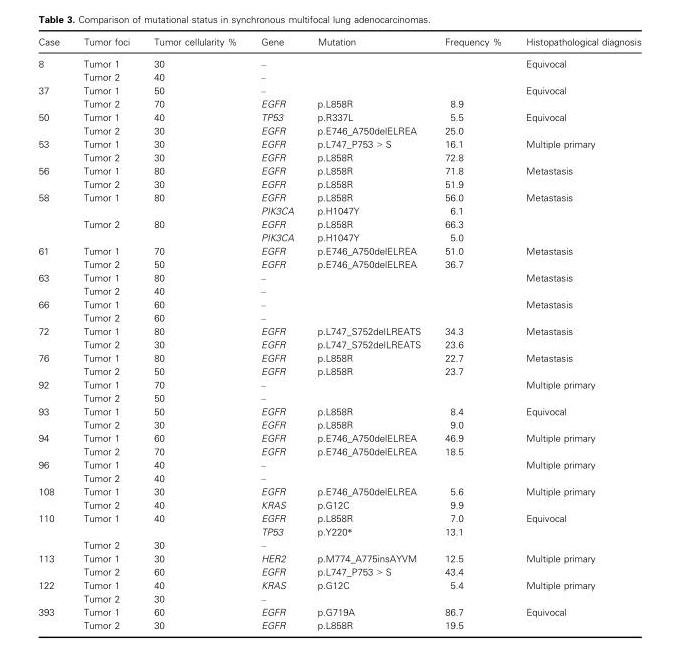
<table><thead><tr><td>Case</td><td>Tumor foci</td><td>Tumor cellularity %</td><td>Gene</td><td>Mutation</td><td>Frequency %</td><td>Histopathological diagnosis</td></tr></thead><tbody><tr><td rowspan="2">8</td><td>Tumor 1</td><td>30</td><td>–</td><td></td><td></td><td rowspan="2">Equivocal</td></tr><tr><td>Tumor 2</td><td>40</td><td>–</td><td></td><td></td></tr><tr><td rowspan="2">37</td><td>Tumor 1</td><td>50</td><td>–</td><td></td><td></td><td rowspan="2">Equivocal</td></tr><tr><td>Tumor 2</td><td>70</td><td>EGFR</td><td>p.L858R</td><td>8.9</td></tr><tr><td rowspan="2">50</td><td>Tumor 1</td><td>40</td><td>TP53</td><td>p.R337L</td><td>5.5</td><td rowspan="2">Equivocal</td></tr><tr><td>Tumor 2</td><td>30</td><td>EGFR</td><td>p.E746_A750delELREA</td><td>25.0</td></tr><tr><td rowspan="2">53</td><td>Tumor 1</td><td>30</td><td>EGFR</td><td>p.L747_P753 &gt; S</td><td>16.1</td><td rowspan="2">Multiple primary</td></tr><tr><td>Tumor 2</td><td>30</td><td>EGFR</td><td>p.L858R</td><td>72.8</td></tr><tr><td rowspan="2">56</td><td>Tumor 1</td><td>80</td><td>EGFR</td><td>p.L858R</td><td>71.8</td><td rowspan="2">Metastasis</td></tr><tr><td>Tumor 2</td><td>30</td><td>EGFR</td><td>p.L858R</td><td>51.9</td></tr><tr><td rowspan="4">58</td><td rowspan="2">Tumor 1</td><td rowspan="2">80</td><td>EGFR</td><td>p.L858R</td><td>56.0</td><td rowspan="4">Metastasis</td></tr><tr><td>PIK3CA</td><td>p.H1047Y</td><td>6.1</td></tr><tr><td rowspan="2">Tumor 2</td><td rowspan="2">80</td><td>EGFR</td><td>p.L858R</td><td>66.3</td></tr><tr><td>PIK3CA</td><td>p.H1047Y</td><td>5.0</td></tr><tr><td rowspan="2">61</td><td>Tumor 1</td><td>70</td><td>EGFR</td><td>p.E746_A750delELREA</td><td>51.0</td><td rowspan="2">Metastasis</td></tr><tr><td>Tumor 2</td><td>50</td><td>EGFR</td><td>p.E746_A750delELREA</td><td>36.7</td></tr><tr><td rowspan="2">63</td><td>Tumor 1</td><td>80</td><td>–</td><td></td><td></td><td rowspan="2">Metastasis</td></tr><tr><td>Tumor 2</td><td>40</td><td>–</td><td></td><td></td></tr><tr><td rowspan="2">66</td><td>Tumor 1</td><td>60</td><td>–</td><td></td><td></td><td rowspan="2">Metastasis</td></tr><tr><td>Tumor 2</td><td>60</td><td>–</td><td></td><td></td></tr><tr><td rowspan="2">72</td><td>Tumor 1</td><td>80</td><td>EGFR</td><td>p.L747_S752delLREATS</td><td>34.3</td><td rowspan="2">Metastasis</td></tr><tr><td>Tumor 2</td><td>30</td><td>EGFR</td><td>p.L747_S752delLREATS</td><td>23.6</td></tr><tr><td rowspan="2">76</td><td>Tumor 1</td><td>80</td><td>EGFR</td><td>p.L858R</td><td>22.7</td><td rowspan="2">Metastasis</td></tr><tr><td>Tumor 2</td><td>50</td><td>EGFR</td><td>p.L858R</td><td>23.7</td></tr><tr><td rowspan="2">92</td><td>Tumor 1</td><td>70</td><td>–</td><td></td><td></td><td rowspan="2">Multiple primary</td></tr><tr><td>Tumor 2</td><td>50</td><td>–</td><td></td><td></td></tr><tr><td rowspan="2">93</td><td>Tumor 1</td><td>50</td><td>EGFR</td><td>p.L858R</td><td>8.4</td><td rowspan="2">Equivocal</td></tr><tr><td>Tumor 2</td><td>30</td><td>EGFR</td><td>p.L858R</td><td>9.0</td></tr><tr><td rowspan="2">94</td><td>Tumor 1</td><td>60</td><td>EGFR</td><td>p.E746_A750delELREA</td><td>46.9</td><td rowspan="2">Multiple primary</td></tr><tr><td>Tumor 2</td><td>70</td><td>EGFR</td><td>p.E746_A750delELREA</td><td>18.5</td></tr><tr><td rowspan="2">96</td><td>Tumor 1</td><td>40</td><td>–</td><td></td><td></td><td rowspan="2">Multiple primary</td></tr><tr><td>Tumor 2</td><td>40</td><td>–</td><td></td><td></td></tr><tr><td rowspan="2">108</td><td>Tumor 1</td><td>30</td><td>EGFR</td><td>p.E746_A750delELREA</td><td>5.6</td><td rowspan="2">Multiple primary</td></tr><tr><td>Tumor 2</td><td>40</td><td>KRAS</td><td>p.G12C</td><td>9.9</td></tr><tr><td rowspan="3">110</td><td rowspan="2">Tumor 1</td><td rowspan="2">40</td><td>EGFR</td><td>p.L858R</td><td>7.0</td><td rowspan="3">Equivocal</td></tr><tr><td>TP53</td><td>p.Y220*</td><td>13.1</td></tr><tr><td>Tumor 2</td><td>30</td><td>–</td><td></td><td></td></tr><tr><td rowspan="2">113</td><td>Tumor 1</td><td>30</td><td>HER2</td><td>p.M774_A775insAYVM</td><td>12.5</td><td rowspan="2">Multiple primary</td></tr><tr><td>Tumor 2</td><td>60</td><td>EGFR</td><td>p.L747_P753 &gt; S</td><td>43.4</td></tr><tr><td rowspan="2">122</td><td>Tumor 1</td><td>40</td><td>KRAS</td><td>p.G12C</td><td>5.4</td><td rowspan="2">Multiple primary</td></tr><tr><td>Tumor 2</td><td>30</td><td>–</td><td></td><td></td></tr><tr><td rowspan="2">393</td><td>Tumor 1</td><td>60</td><td>EGFR</td><td>p.G719A</td><td>86.7</td><td rowspan="2">Equivocal</td></tr><tr><td>Tumor 2</td><td>30</td><td>EGFR</td><td>p.L858R</td><td>19.5</td></tr></tbody></table>